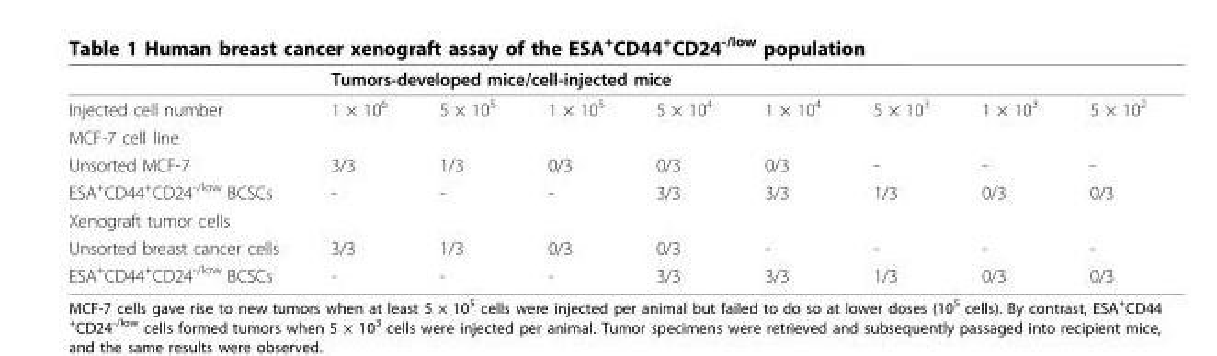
<table><thead><tr><td rowspan="2">Injected cell number</td><td colspan="8">Tumors-developed mice/cell-injected mice</td></tr><tr><td>1 × 10<sup>6</sup></td><td>5 × 10<sup>5</sup></td><td>1 × 10<sup>5</sup></td><td>5 × 10<sup>4</sup></td><td>1 × 10<sup>4</sup></td><td>5 × 10<sup>3</sup></td><td>1 × 10<sup>3</sup></td><td>5 × 10<sup>2</sup></td></tr></thead><tbody><tr><td colspan="9">MCF-7 cell line</td></tr><tr><td>Unsorted MCF-7</td><td>3/3</td><td>1/3</td><td>0/3</td><td>0/3</td><td>0/3</td><td>-</td><td>-</td><td>-</td></tr><tr><td>ESA<sup>+</sup>CD44<sup>+</sup>CD24<sup>-/low</sup> BCSCs</td><td>-</td><td>-</td><td>-</td><td>3/3</td><td>3/3</td><td>1/3</td><td>0/3</td><td>0/3</td></tr><tr><td colspan="9">Xenograft tumor cells</td></tr><tr><td>Unsorted breast cancer cells</td><td>3/3</td><td>1/3</td><td>0/3</td><td>0/3</td><td>-</td><td>-</td><td>-</td><td>-</td></tr><tr><td>ESA<sup>+</sup>CD44<sup>+</sup>CD24<sup>-/low</sup> BCSCs</td><td>-</td><td>-</td><td>-</td><td>3/3</td><td>3/3</td><td>1/3</td><td>0/3</td><td>0/3</td></tr></tbody></table>